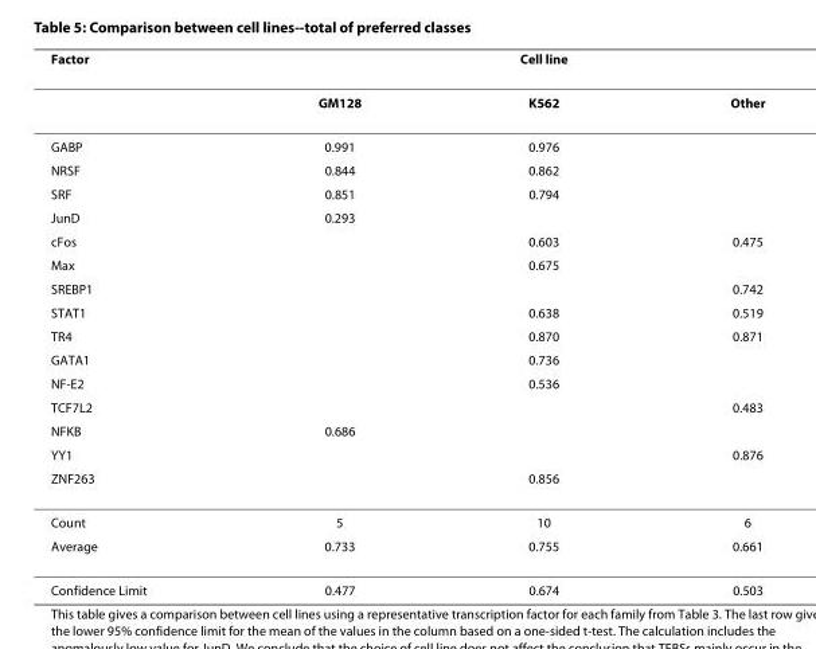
<table><thead><tr><td rowspan="2">Factor</td><td colspan="3">Cell line</td></tr><tr><td>GM128</td><td>K562</td><td>Other</td></tr></thead><tbody><tr><td>GABP</td><td>0.991</td><td>0.976</td><td></td></tr><tr><td>NRSF</td><td>0.844</td><td>0.862</td><td></td></tr><tr><td>SRF</td><td>0.851</td><td>0.794</td><td></td></tr><tr><td>JunD</td><td>0.293</td><td></td><td></td></tr><tr><td>cFos</td><td></td><td>0.603</td><td>0.475</td></tr><tr><td>Max</td><td></td><td>0.675</td><td></td></tr><tr><td>SREBP1</td><td></td><td></td><td>0.742</td></tr><tr><td>STAT1</td><td></td><td>0.638</td><td>0.519</td></tr><tr><td>TR4</td><td></td><td>0.870</td><td>0.871</td></tr><tr><td>GATA1</td><td></td><td>0.736</td><td></td></tr><tr><td>NF-E2</td><td></td><td>0.536</td><td></td></tr><tr><td>TCF7L2</td><td></td><td></td><td>0.483</td></tr><tr><td>NFKB</td><td>0.686</td><td></td><td></td></tr><tr><td>YY1</td><td></td><td></td><td>0.876</td></tr><tr><td>ZNF263</td><td></td><td>0.856</td><td></td></tr><tr><td>Count</td><td>5</td><td>10</td><td>6</td></tr><tr><td>Average</td><td>0.733</td><td>0.755</td><td>0.661</td></tr><tr><td>Confidence Limit</td><td>0.477</td><td>0.674</td><td>0.503</td></tr></tbody></table>